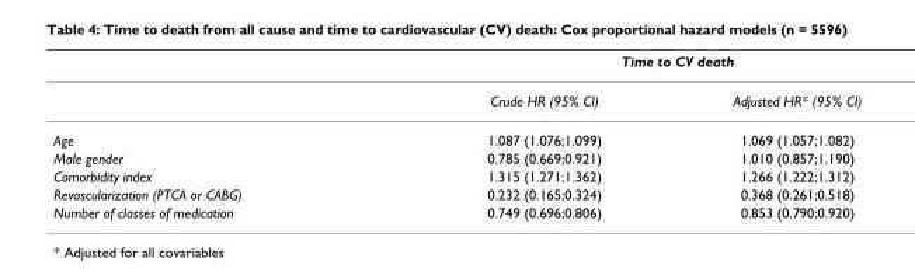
<table><thead><tr><td rowspan="2"></td><td colspan="2">Time to CV death</td></tr><tr><td>Crude HR (95% CI)</td><td>Adjusted HR* (95% CI)</td></tr></thead><tbody><tr><td>Age</td><td>1.087 (1.076;1.099)</td><td>1.069 (1.057;1.082)</td></tr><tr><td>Male gender</td><td>0.785 (0.669;0.921)</td><td>1.010 (0.857;1.190)</td></tr><tr><td>Comorbidity index</td><td>1.315 (1.271;1.362)</td><td>1.266 (1.222;1.312)</td></tr><tr><td>Revascularization (PTCA or CABG)</td><td>0.232 (0.165;0.324)</td><td>0.368 (0.261;0.518)</td></tr><tr><td>Number of classes of medication</td><td>0.749 (0.696;0.806)</td><td>0.853 (0.790;0.920)</td></tr></tbody></table>